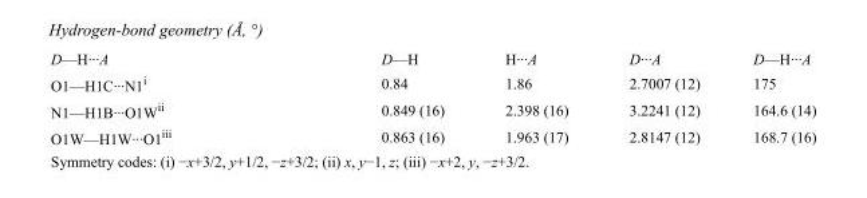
<table><tbody><tr><td>D—H···A</td><td>D—H</td><td>H···A</td><td>D···A</td><td>D—H···A</td></tr><tr><td>O1—H1C···N1<sup>i</sup></td><td>0.84</td><td>1.86</td><td>2.7007 (12)</td><td>175</td></tr><tr><td>N1—H1B···O1W<sup>ii</sup></td><td>0.849 (16)</td><td>2.398 (16)</td><td>3.2241 (12)</td><td>164.6 (14)</td></tr><tr><td>O1W—H1W···O1<sup>iii</sup></td><td>0.863 (16)</td><td>1.963 (17)</td><td>2.8147 (12)</td><td>168.7 (16)</td></tr></tbody></table>